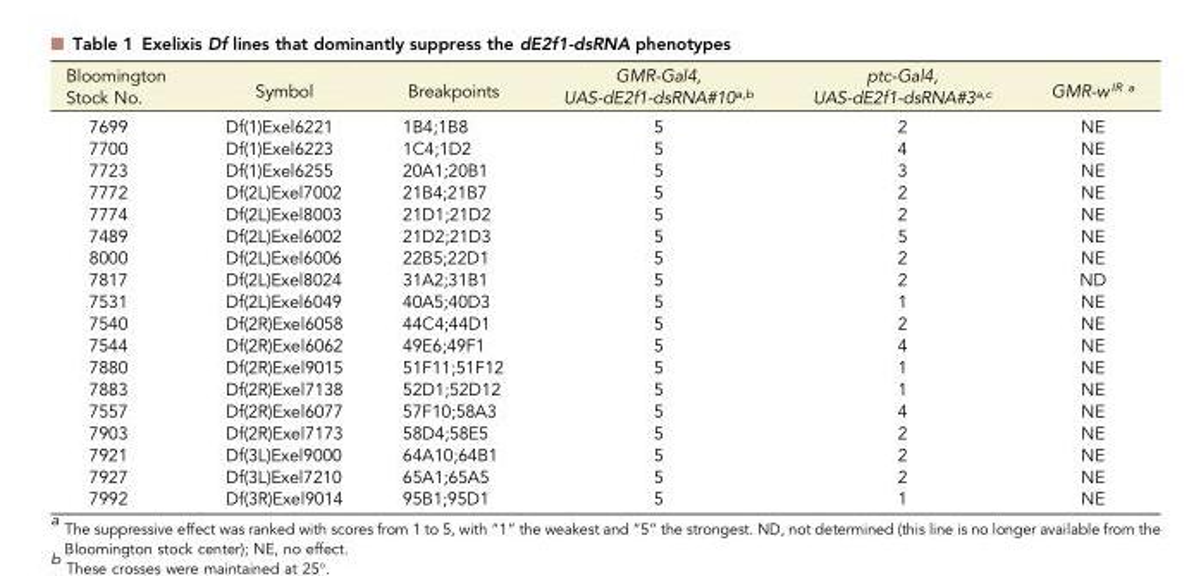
<table><thead><tr><td>Bloomington Stock No.</td><td>Symbol</td><td>Breakpoints</td><td>GMR-Gal4, UAS-dE2f1-dsRNA#10<sup>a,b</sup></td><td>ptc-Gal4, UAS-dE2f1-dsRNA#3<sup>a,c</sup></td><td>GMR-w <sup>IR a</sup></td></tr></thead><tbody><tr><td>7699</td><td>Df(1)Exel6221</td><td>1B4;1B8</td><td>5</td><td>2</td><td>NE</td></tr><tr><td>7700</td><td>Df(1)Exel6223</td><td>1C4;1D2</td><td>5</td><td>4</td><td>NE</td></tr><tr><td>7723</td><td>Df(1)Exel6255</td><td>20A1;20B1</td><td>5</td><td>3</td><td>NE</td></tr><tr><td>7772</td><td>Df(2L)Exel7002</td><td>21B4;21B7</td><td>5</td><td>2</td><td>NE</td></tr><tr><td>7774</td><td>Df(2L)Exel8003</td><td>21D1;21D2</td><td>5</td><td>2</td><td>NE</td></tr><tr><td>7489</td><td>Df(2L)Exel6002</td><td>21D2;21D3</td><td>5</td><td>5</td><td>NE</td></tr><tr><td>8000</td><td>Df(2L)Exel6006</td><td>22B5;22D1</td><td>5</td><td>2</td><td>NE</td></tr><tr><td>7817</td><td>Df(2L)Exel8024</td><td>31A2;31B1</td><td>5</td><td>2</td><td>ND</td></tr><tr><td>7531</td><td>Df(2L)Exel6049</td><td>40A5;40D3</td><td>5</td><td>1</td><td>NE</td></tr><tr><td>7540</td><td>Df(2R)Exel6058</td><td>44C4;44D1</td><td>5</td><td>2</td><td>NE</td></tr><tr><td>7544</td><td>Df(2R)Exel6062</td><td>49E6;49F1</td><td>5</td><td>4</td><td>NE</td></tr><tr><td>7880</td><td>Df(2R)Exel9015</td><td>51F11;51F12</td><td>5</td><td>1</td><td>NE</td></tr><tr><td>7883</td><td>Df(2R)Exel7138</td><td>52D1;52D12</td><td>5</td><td>1</td><td>NE</td></tr><tr><td>7557</td><td>Df(2R)Exel6077</td><td>57F10;58A3</td><td>5</td><td>4</td><td>NE</td></tr><tr><td>7903</td><td>Df(2R)Exel7173</td><td>58D4;58E5</td><td>5</td><td>2</td><td>NE</td></tr><tr><td>7921</td><td>Df(3L)Exel9000</td><td>64A10;64B1</td><td>5</td><td>2</td><td>NE</td></tr><tr><td>7927</td><td>Df(3L)Exel7210</td><td>65A1;65A5</td><td>5</td><td>2</td><td>NE</td></tr><tr><td>7992</td><td>Df(3R)Exel9014</td><td>95B1;95D1</td><td>5</td><td>1</td><td>NE</td></tr></tbody></table>